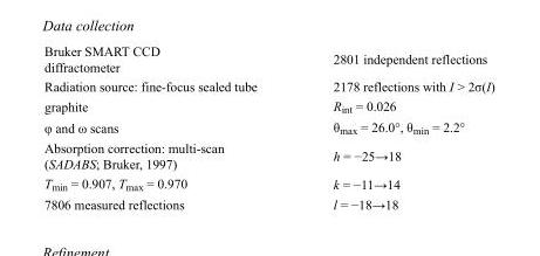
<table><tbody><tr><td>Bruker SMART CCD diffractometer</td><td>2801 independent reflections</td></tr><tr><td>Radiation source: fine-focus sealed tube</td><td>2178 reflections with I &gt; 2σ(I)</td></tr><tr><td>graphite</td><td>R<sub>int</sub> = 0.026</td></tr><tr><td>φ and ω scans</td><td>θ<sub>max</sub> = 26.0°, θ<sub>min</sub> = 2.2°</td></tr><tr><td>Absorption correction: multi-scan (SADABS; Bruker, 1997)</td><td>h = −25→18</td></tr><tr><td>T<sub>min</sub> = 0.907, T<sub>max</sub> = 0.970</td><td>k = −11→14</td></tr><tr><td>7806 measured reflections</td><td>l = −18→18</td></tr></tbody></table>